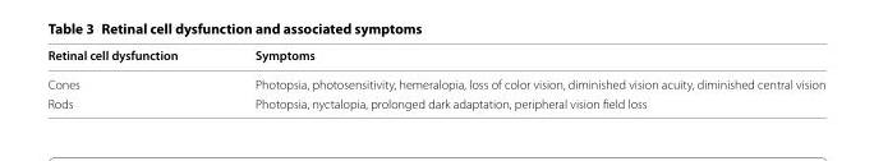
<table><thead><tr><td>Retinal cell dysfunction</td><td>Symptoms</td></tr></thead><tbody><tr><td>Cones</td><td>Photopsia, photosensitivity, hemeralopia, loss of color vision, diminished vision acuity, diminished central vision</td></tr><tr><td>Rods</td><td>Photopsia, nyctalopia, prolonged dark adaptation, peripheral vision field loss</td></tr></tbody></table>